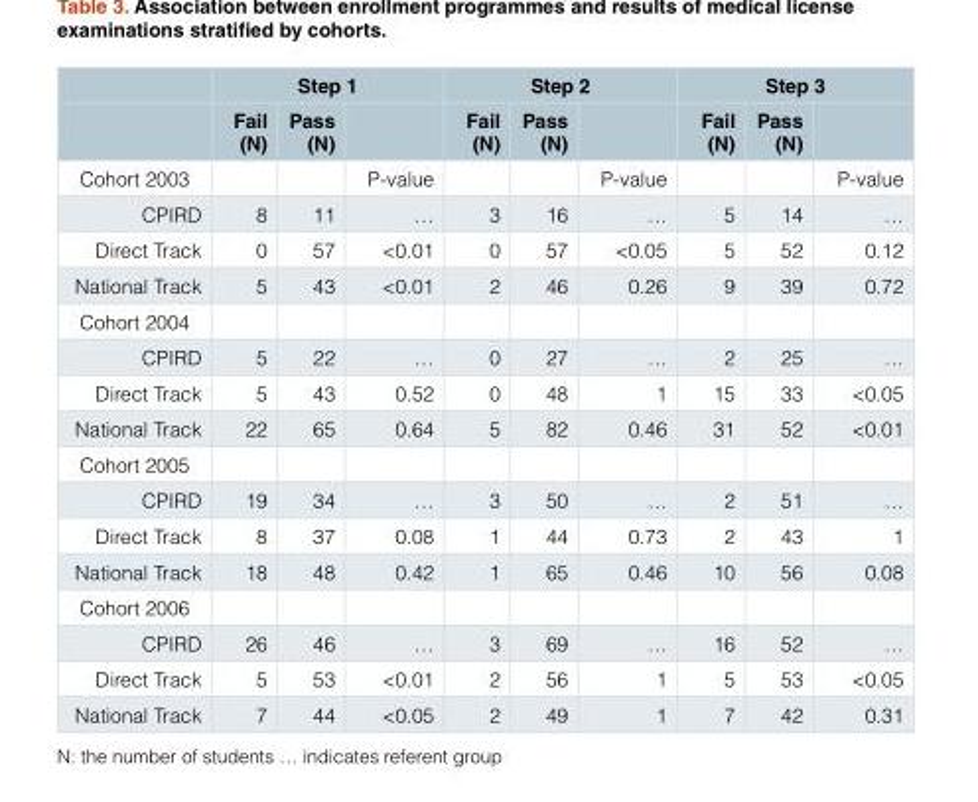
<table><thead><tr><td rowspan="2"></td><td colspan="3">Step 1</td><td colspan="3">Step 2</td><td colspan="3">Step 3</td></tr><tr><td>Fail (N)</td><td>Pass (N)</td><td></td><td>Fail (N)</td><td>Pass (N)</td><td></td><td>Fail (N)</td><td>Pass (N)</td><td></td></tr></thead><tbody><tr><td>Cohort 2003</td><td></td><td></td><td>P-value</td><td></td><td></td><td>P-value</td><td></td><td></td><td>P-value</td></tr><tr><td>CPIRD</td><td>8</td><td>11</td><td>…</td><td>3</td><td>16</td><td>…</td><td>5</td><td>14</td><td>…</td></tr><tr><td>Direct Track</td><td>0</td><td>57</td><td>&lt;0.01</td><td>0</td><td>57</td><td>&lt;0.05</td><td>5</td><td>52</td><td>0.12</td></tr><tr><td>National Track</td><td>5</td><td>43</td><td>&lt;0.01</td><td>2</td><td>46</td><td>0.26</td><td>9</td><td>39</td><td>0.72</td></tr><tr><td colspan="10">Cohort 2004</td></tr><tr><td>CPIRD</td><td>5</td><td>22</td><td>…</td><td>0</td><td>27</td><td>…</td><td>2</td><td>25</td><td>…</td></tr><tr><td>Direct Track</td><td>5</td><td>43</td><td>0.52</td><td>0</td><td>48</td><td>1</td><td>15</td><td>33</td><td>&lt;0.05</td></tr><tr><td>National Track</td><td>22</td><td>65</td><td>0.64</td><td>5</td><td>82</td><td>0.46</td><td>31</td><td>52</td><td>&lt;0.01</td></tr><tr><td colspan="10">Cohort 2005</td></tr><tr><td>CPIRD</td><td>19</td><td>34</td><td>…</td><td>3</td><td>50</td><td>…</td><td>2</td><td>51</td><td>…</td></tr><tr><td>Direct Track</td><td>8</td><td>37</td><td>0.08</td><td>1</td><td>44</td><td>0.73</td><td>2</td><td>43</td><td>1</td></tr><tr><td>National Track</td><td>18</td><td>48</td><td>0.42</td><td>1</td><td>65</td><td>0.46</td><td>10</td><td>56</td><td>0.08</td></tr><tr><td colspan="10">Cohort 2006</td></tr><tr><td>CPIRD</td><td>26</td><td>46</td><td>…</td><td>3</td><td>69</td><td>…</td><td>16</td><td>52</td><td>…</td></tr><tr><td>Direct Track</td><td>5</td><td>53</td><td>&lt;0.01</td><td>2</td><td>56</td><td>1</td><td>5</td><td>53</td><td>&lt;0.05</td></tr><tr><td>National Track</td><td>7</td><td>44</td><td>&lt;0.05</td><td>2</td><td>49</td><td>1</td><td>7</td><td>42</td><td>0.31</td></tr></tbody></table>